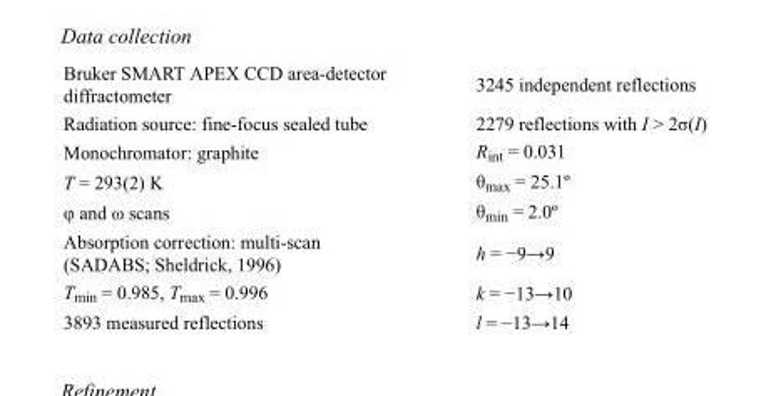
<table><tbody><tr><td>Bruker SMART APEX CCD area-detector diffractometer</td><td>3245 independent reflections</td></tr><tr><td>Radiation source: fine-focus sealed tube</td><td>2279 reflections with I &gt; 2σ(I)</td></tr><tr><td>Monochromator: graphite</td><td>R<sub>int</sub> = 0.031</td></tr><tr><td>T = 293(2) K</td><td>θ<sub>max</sub> = 25.1º</td></tr><tr><td>φ and ω scans</td><td>θ<sub>min</sub> = 2.0º</td></tr><tr><td>Absorption correction: multi-scan (SADABS; Sheldrick, 1996)</td><td>h = −9→9</td></tr><tr><td>T<sub>min</sub> = 0.985, T<sub>max</sub> = 0.996</td><td>k = −13→10</td></tr><tr><td>3893 measured reflections</td><td>l = −13→14</td></tr></tbody></table>